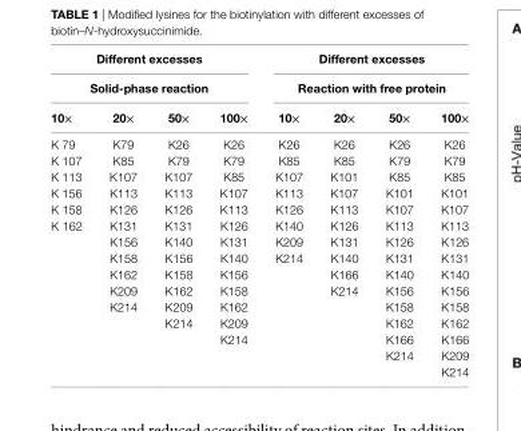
<table><thead><tr><td rowspan="2" colspan="4">Different excesses solid-phase reaction</td><td rowspan="2" colspan="4">Different excesses reaction with free protein</td></tr><tr></tr><tr><td>10×</td><td>20×</td><td>50×</td><td>100×</td><td>10×</td><td>20×</td><td>50×</td><td>100×</td></tr></thead><tbody><tr><td>K 79</td><td>K79</td><td>K26</td><td>K26</td><td>K26</td><td>K26</td><td>K26</td><td>K26</td></tr><tr><td>K 107</td><td>K85</td><td>K79</td><td>K79</td><td>K85</td><td>K85</td><td>K79</td><td>K79</td></tr><tr><td>K 113</td><td>K107</td><td>K107</td><td>K85</td><td>K107</td><td>K101</td><td>K85</td><td>K85</td></tr><tr><td>K 156</td><td>K113</td><td>K113</td><td>K107</td><td>K113</td><td>K107</td><td>K101</td><td>K101</td></tr><tr><td>K 158</td><td>K126</td><td>K126</td><td>K113</td><td>K126</td><td>K113</td><td>K107</td><td>K107</td></tr><tr><td rowspan="10">K 162</td><td>K131</td><td>K131</td><td>K126</td><td>K140</td><td>K126</td><td>K113</td><td>K113</td></tr><tr><td>K156</td><td>K140</td><td>K131</td><td>K209</td><td>K131</td><td>K126</td><td>K126</td></tr><tr><td>K158</td><td>K156</td><td>K140</td><td>K214</td><td>K140</td><td>K131</td><td>K131</td></tr><tr><td>K162</td><td>K158</td><td>K156</td><td></td><td>K166</td><td>K140</td><td>K140</td></tr><tr><td>K209</td><td>K162</td><td>K158</td><td></td><td>K214</td><td>K156</td><td>K156</td></tr><tr><td>K214</td><td>K209</td><td>K162</td><td></td><td></td><td>K158</td><td>K158</td></tr><tr><td></td><td>K214</td><td>K209</td><td></td><td></td><td>K162</td><td>K162</td></tr><tr><td></td><td></td><td>K214</td><td></td><td></td><td>K166</td><td>K166</td></tr><tr><td></td><td></td><td></td><td></td><td></td><td>K214</td><td>K209</td></tr><tr><td></td><td></td><td></td><td></td><td></td><td></td><td>K214</td></tr></tbody></table>